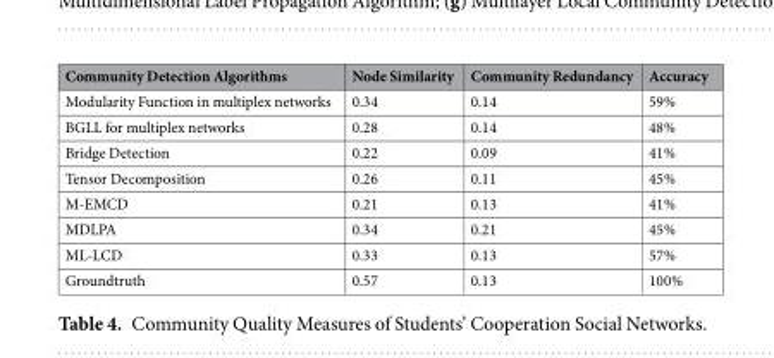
<table><thead><tr><td>Community Detection Algorithms</td><td>Node Similarity</td><td>Community Redundancy</td><td>Accuracy</td></tr></thead><tbody><tr><td>Modularity Function in multiplex networks</td><td>0.34</td><td>0.14</td><td>59%</td></tr><tr><td>BGLL for multiplex networks</td><td>0.28</td><td>0.14</td><td>48%</td></tr><tr><td>Bridge Detection</td><td>0.22</td><td>0.09</td><td>41%</td></tr><tr><td>Tensor Decomposition</td><td>0.26</td><td>0.11</td><td>45%</td></tr><tr><td>M-EMCD</td><td>0.21</td><td>0.13</td><td>41%</td></tr><tr><td>MDLPA</td><td>0.34</td><td>0.21</td><td>45%</td></tr><tr><td>ML-LCD</td><td>0.33</td><td>0.13</td><td>57%</td></tr><tr><td>Groundtruth</td><td>0.57</td><td>0.13</td><td>100%</td></tr></tbody></table>